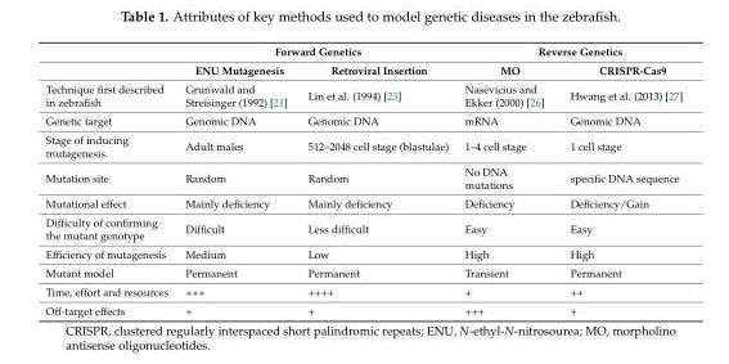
<table><thead><tr><td rowspan="2"></td><td colspan="2">Forward Genetics</td><td colspan="2">Reverse Genetics</td></tr><tr><td>ENU Mutagenesis</td><td>Retroviral Insertion</td><td>MO</td><td>CRISPR-Cas9</td></tr></thead><tbody><tr><td>Technique first described in zebrafish</td><td>Grunwald and Streisinger (1992) [21]</td><td>Lin et al. (1994) [23]</td><td>Nasevicius and Ekker (2000) [26]</td><td>Hwang et al. (2013) [27]</td></tr><tr><td>Genetic target</td><td>Genomic DNA</td><td>Genomic DNA</td><td>mRNA</td><td>Genomic DNA</td></tr><tr><td>Stage of inducing mutagenesis</td><td>Adult males</td><td>512–2048 cell stage (blastulae)</td><td>1–4 cell stage</td><td>1 cell stage</td></tr><tr><td>Mutation site</td><td>Random</td><td>Random</td><td>No DNA mutations</td><td>specific DNA sequence</td></tr><tr><td>Mutational effect</td><td>Mainly deficiency</td><td>Mainly deficiency</td><td>Deficiency</td><td>Deficiency/Gain</td></tr><tr><td>Difficulty of confirming the mutant genotype</td><td>Difficult</td><td>Less difficult</td><td>Easy</td><td>Easy</td></tr><tr><td>Efficiency of mutagenesis</td><td>Medium</td><td>Low</td><td>High</td><td>High</td></tr><tr><td>Mutant model</td><td>Permanent</td><td>Permanent</td><td>Transient</td><td>Permanent</td></tr><tr><td>Time, effort and resources</td><td>+++</td><td>++++</td><td>+</td><td>++</td></tr><tr><td>Off-target effects</td><td>+</td><td>+</td><td>+++</td><td>+</td></tr></tbody></table>